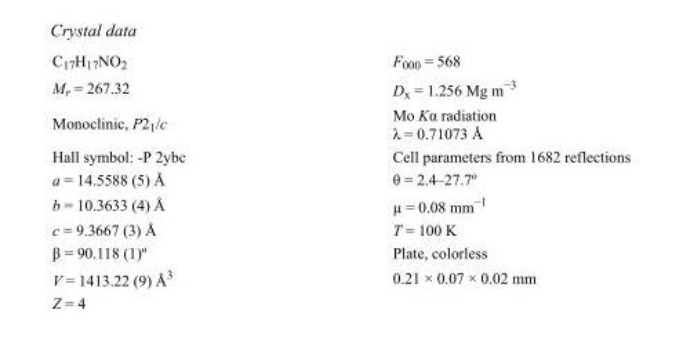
<table><tbody><tr><td>C<sub>17</sub>H<sub>17</sub>NO<sub>2</sub></td><td>F000 = 568</td></tr><tr><td>M<sub>r</sub> = 267.32</td><td>D<sub>x</sub> = 1.256 Mg m<sup>−3</sup></td></tr><tr><td>Monoclinic, P2<sub>1</sub>/c</td><td>Mo Kα radiation λ = 0.71073 Å</td></tr><tr><td>Hall symbol: -P 2ybc</td><td>Cell parameters from 1682 reflections</td></tr><tr><td>a = 14.5588 (5) Å</td><td>θ = 2.4–27.7º</td></tr><tr><td>b = 10.3633 (4) Å</td><td>µ = 0.08 mm<sup>−1</sup></td></tr><tr><td>c = 9.3667 (3) Å</td><td>T = 100 K</td></tr><tr><td>β = 90.118 (1)º</td><td>Plate, colorless</td></tr><tr><td>V = 1413.22 (9) Å<sup>3</sup></td><td>0.21 × 0.07 × 0.02 mm</td></tr><tr><td>Z = 4</td><td></td></tr></tbody></table>